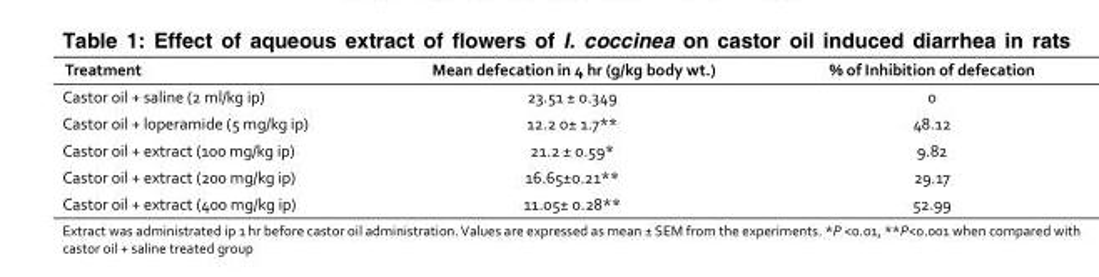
<table><thead><tr><td>Treatment</td><td>Mean defecation in 4 hr (g/kg body wt.)</td><td>% of Inhibition of defecation</td></tr></thead><tbody><tr><td>Castor oil + saline (2 ml/kg ip)</td><td>23.51 ± 0.349</td><td>0</td></tr><tr><td>Castor oil + loperamide (5 mg/kg ip)</td><td>12.2 0± 1.7**</td><td>48.12</td></tr><tr><td>Castor oil + extract (100 mg/kg ip)</td><td>21.2 ± 0.59*</td><td>9.82</td></tr><tr><td>Castor oil + extract (200 mg/kg ip)</td><td>16.65±0.21**</td><td>29.17</td></tr><tr><td>Castor oil + extract (400 mg/kg ip)</td><td>11.05± 0.28**</td><td>52.99</td></tr></tbody></table>